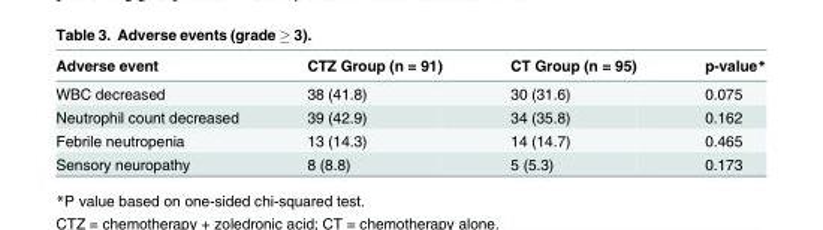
<table><thead><tr><td>Adverse event</td><td>CTZ Group (n = 91)</td><td>CT Group (n = 95)</td><td>p-value*</td></tr></thead><tbody><tr><td>WBC decreased</td><td>38 (41.8)</td><td>30 (31.6)</td><td>0.075</td></tr><tr><td>Neutrophil count decreased</td><td>39 (42.9)</td><td>34 (35.8)</td><td>0.162</td></tr><tr><td>Febrile neutropenia</td><td>13 (14.3)</td><td>14 (14.7)</td><td>0.465</td></tr><tr><td>Sensory neuropathy</td><td>8 (8.8)</td><td>5 (5.3)</td><td>0.173</td></tr></tbody></table>